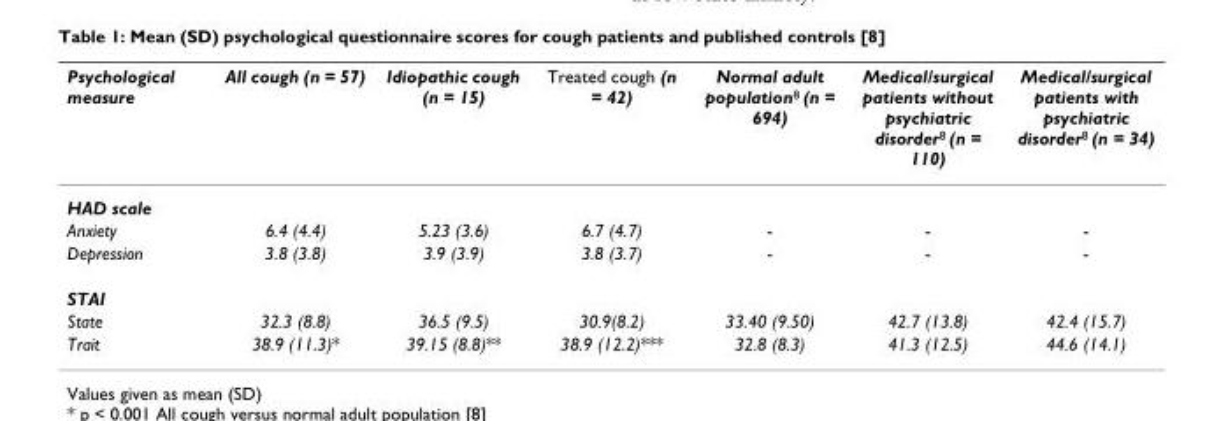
<table><thead><tr><td>Psychological measure</td><td>All cough (n = 57)</td><td>Idiopathic cough (n = 15)</td><td>Treated cough (n = 42)</td><td>Normal adult population<sup>8</sup> (n = 694)</td><td>Medical/surgical patients without psychiatric disorder<sup>8</sup> (n = 110)</td><td>Medical/surgical patients with psychiatric disorder<sup>8</sup> (n = 34)</td></tr></thead><tbody><tr><td colspan="7">HAD scale</td></tr><tr><td>Anxiety</td><td>6.4 (4.4)</td><td>5.23 (3.6)</td><td>6.7 (4.7)</td><td>-</td><td>-</td><td>-</td></tr><tr><td>Depression</td><td>3.8 (3.8)</td><td>3.9 (3.9)</td><td>3.8 (3.7)</td><td>-</td><td>-</td><td>-</td></tr><tr><td colspan="7">STAI</td></tr><tr><td>State</td><td>32.3 (8.8)</td><td>36.5 (9.5)</td><td>30.9(8.2)</td><td>33.40 (9.50)</td><td>42.7 (13.8)</td><td>42.4 (15.7)</td></tr><tr><td>Trait</td><td>38.9 (11.3)*</td><td>39.15 (8.8)**</td><td>38.9 (12.2)***</td><td>32.8 (8.3)</td><td>41.3 (12.5)</td><td>44.6 (14.1)</td></tr></tbody></table>